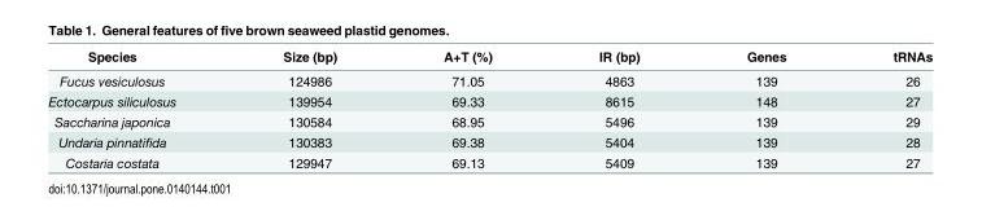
<table><thead><tr><td>Species</td><td>Size (bp)</td><td>A+T (%)</td><td>IR (bp)</td><td>Genes</td><td>tRNAs</td></tr></thead><tbody><tr><td>Fucus vesiculosus</td><td>124986</td><td>71.05</td><td>4863</td><td>139</td><td>26</td></tr><tr><td>Ectocarpus siliculosus</td><td>139954</td><td>69.33</td><td>8615</td><td>148</td><td>27</td></tr><tr><td>Saccharina japonica</td><td>130584</td><td>68.95</td><td>5496</td><td>139</td><td>29</td></tr><tr><td>Undaria pinnatifida</td><td>130383</td><td>69.38</td><td>5404</td><td>139</td><td>28</td></tr><tr><td>Costaria costata</td><td>129947</td><td>69.13</td><td>5409</td><td>139</td><td>27</td></tr></tbody></table>